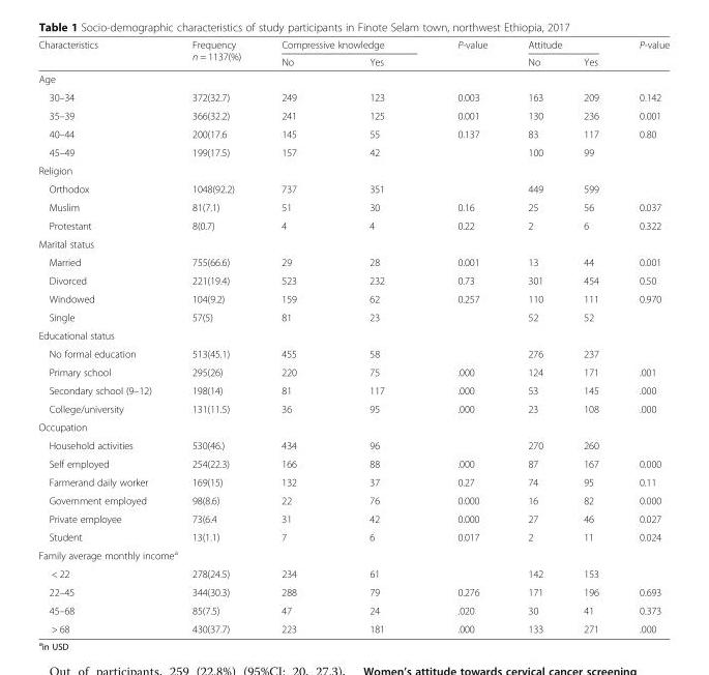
<table><thead><tr><td rowspan="2">Characteristics</td><td rowspan="2">Frequency n = 1137(%)</td><td colspan="2">Compressive knowledge</td><td rowspan="2">P-value</td><td colspan="2">Attitude</td><td rowspan="2">P-value</td></tr><tr><td>No</td><td>Yes</td><td>No</td><td>Yes</td></tr></thead><tbody><tr><td colspan="8">Age</td></tr><tr><td>30–34</td><td>372(32.7)</td><td>249</td><td>123</td><td>0.003</td><td>163</td><td>209</td><td>0.142</td></tr><tr><td>35–39</td><td>366(32.2)</td><td>241</td><td>125</td><td>0.001</td><td>130</td><td>236</td><td>0.001</td></tr><tr><td>40–44</td><td>200(17.6</td><td>145</td><td>55</td><td>0.137</td><td>83</td><td>117</td><td>0.80</td></tr><tr><td>45–49</td><td>199(17.5)</td><td>157</td><td>42</td><td></td><td>100</td><td>99</td><td></td></tr><tr><td colspan="8">Religion</td></tr><tr><td>Orthodox</td><td>1048(92.2)</td><td>737</td><td>351</td><td></td><td>449</td><td>599</td><td></td></tr><tr><td>Muslim</td><td>81(7.1)</td><td>51</td><td>30</td><td>0.16</td><td>25</td><td>56</td><td>0.037</td></tr><tr><td>Protestant</td><td>8(0.7)</td><td>4</td><td>4</td><td>0.22</td><td>2</td><td>6</td><td>0.322</td></tr><tr><td colspan="8">Marital status</td></tr><tr><td>Married</td><td>755(66.6)</td><td>29</td><td>28</td><td>0.001</td><td>13</td><td>44</td><td>0.001</td></tr><tr><td>Divorced</td><td>221(19.4)</td><td>523</td><td>232</td><td>0.73</td><td>301</td><td>454</td><td>0.50</td></tr><tr><td>Windowed</td><td>104(9.2)</td><td>159</td><td>62</td><td>0.257</td><td>110</td><td>111</td><td>0.970</td></tr><tr><td>Single</td><td>57(5)</td><td>81</td><td>23</td><td></td><td>52</td><td>52</td><td></td></tr><tr><td colspan="8">Educational status</td></tr><tr><td>No formal education</td><td>513(45.1)</td><td>455</td><td>58</td><td></td><td>276</td><td>237</td><td></td></tr><tr><td>Primary school</td><td>295(26)</td><td>220</td><td>75</td><td>.000</td><td>124</td><td>171</td><td>.001</td></tr><tr><td>Secondary school (9–12)</td><td>198(14)</td><td>81</td><td>117</td><td>.000</td><td>53</td><td>145</td><td>.000</td></tr><tr><td>College/university</td><td>131(11.5)</td><td>36</td><td>95</td><td>.000</td><td>23</td><td>108</td><td>.000</td></tr><tr><td colspan="8">Occupation</td></tr><tr><td>Household activities</td><td>530(46.)</td><td>434</td><td>96</td><td></td><td>270</td><td>260</td><td></td></tr><tr><td>Self employed</td><td>254(22.3)</td><td>166</td><td>88</td><td>.000</td><td>87</td><td>167</td><td>0.000</td></tr><tr><td>Farmerand daily worker</td><td>169(15)</td><td>132</td><td>37</td><td>0.27</td><td>74</td><td>95</td><td>0.11</td></tr><tr><td>Government employed</td><td>98(8.6)</td><td>22</td><td>76</td><td>0.000</td><td>16</td><td>82</td><td>0.000</td></tr><tr><td>Private employee</td><td>73(6.4</td><td>31</td><td>42</td><td>0.000</td><td>27</td><td>46</td><td>0.027</td></tr><tr><td>Student</td><td>13(1.1)</td><td>7</td><td>6</td><td>0.017</td><td>2</td><td>11</td><td>0.024</td></tr><tr><td colspan="8">Family average monthly income<sup>a</sup></td></tr><tr><td>&lt; 22</td><td>278(24.5)</td><td>234</td><td>61</td><td></td><td>142</td><td>153</td><td></td></tr><tr><td>22–45</td><td>344(30.3)</td><td>288</td><td>79</td><td>0.276</td><td>171</td><td>196</td><td>0.693</td></tr><tr><td>45–68</td><td>85(7.5)</td><td>47</td><td>24</td><td>.020</td><td>30</td><td>41</td><td>0.373</td></tr><tr><td>&gt; 68</td><td>430(37.7)</td><td>223</td><td>181</td><td>.000</td><td>133</td><td>271</td><td>.000</td></tr></tbody></table>